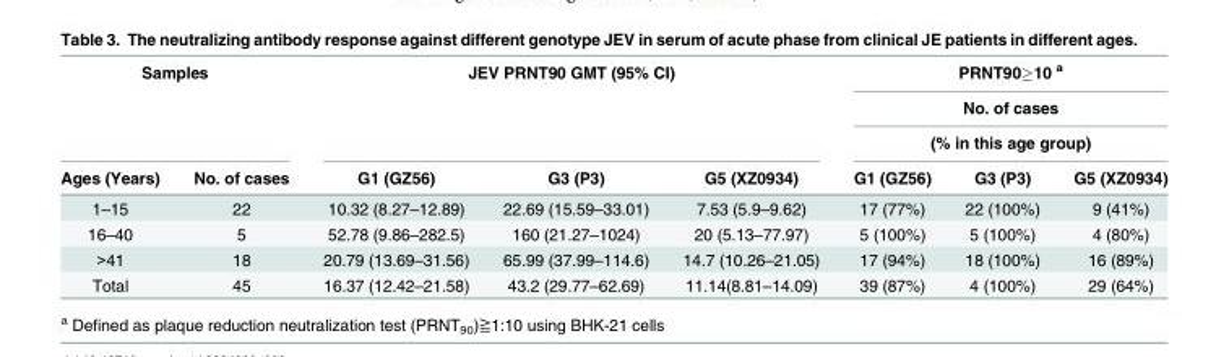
<table><thead><tr><td colspan="2">Samples</td><td colspan="3">JEV PRNT90 GMT (95% CI)</td><td rowspan="3" colspan="3">PRNT90≥10 a No. of cases (% in this age group)</td></tr><tr><td rowspan="3">Ages (Years)</td><td rowspan="3">No. of cases</td><td rowspan="3">G1 (GZ56)</td><td rowspan="3">G3 (P3)</td><td rowspan="3">G5 (XZ0934)</td></tr><tr></tr><tr><td>G1 (GZ56)</td><td>G3 (P3)</td><td>G5 (XZ0934)</td></tr></thead><tbody><tr><td>1–15</td><td>22</td><td>10.32 (8.27–12.89)</td><td>22.69 (15.59–33.01)</td><td>7.53 (5.9–9.62)</td><td>17 (77%)</td><td>22 (100%)</td><td>9 (41%)</td></tr><tr><td>16–40</td><td>5</td><td>52.78 (9.86–282.5)</td><td>160 (21.27–1024)</td><td>20 (5.13–77.97)</td><td>5 (100%)</td><td>5 (100%)</td><td>4 (80%)</td></tr><tr><td>&gt;41</td><td>18</td><td>20.79 (13.69–31.56)</td><td>65.99 (37.99–114.6)</td><td>14.7 (10.26–21.05)</td><td>17 (94%)</td><td>18 (100%)</td><td>16 (89%)</td></tr><tr><td>Total</td><td>45</td><td>16.37 (12.42–21.58)</td><td>43.2 (29.77–62.69)</td><td>11.14(8.81–14.09)</td><td>39 (87%)</td><td>4 (100%)</td><td>29 (64%)</td></tr></tbody></table>